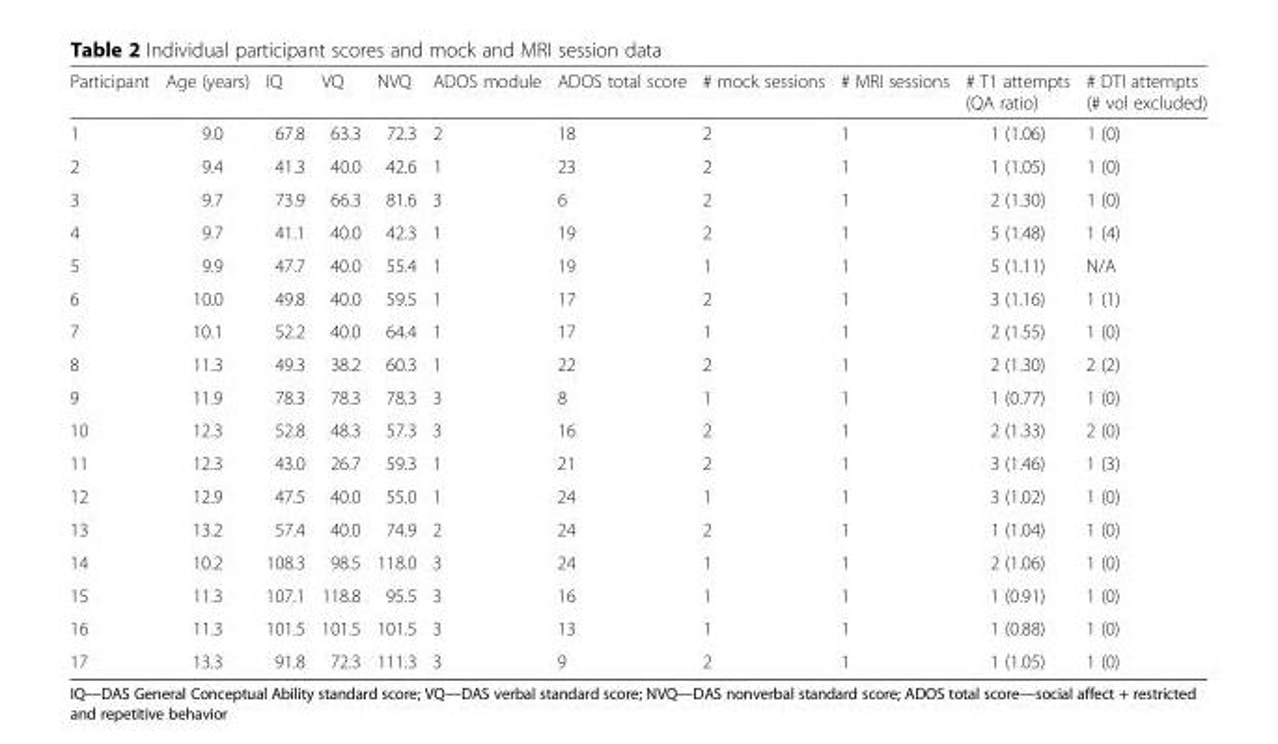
<table><thead><tr><td>Participant</td><td>Age (years)</td><td>IQ</td><td>VQ</td><td>NVQ</td><td>ADOS module</td><td>ADOS total score</td><td># mock sessions</td><td># MRI sessions</td><td># T1 attempts (QA ratio)</td><td># DTI attempts (# vol excluded)</td></tr></thead><tbody><tr><td>1</td><td>9.0</td><td>67.8</td><td>63.3</td><td>72.3</td><td>2</td><td>18</td><td>2</td><td>1</td><td>1 (1.06)</td><td>1 (0)</td></tr><tr><td>2</td><td>9.4</td><td>41.3</td><td>40.0</td><td>42.6</td><td>1</td><td>23</td><td>2</td><td>1</td><td>1 (1.05)</td><td>1 (0)</td></tr><tr><td>3</td><td>9.7</td><td>73.9</td><td>66.3</td><td>81.6</td><td>3</td><td>6</td><td>2</td><td>1</td><td>2 (1.30)</td><td>1 (0)</td></tr><tr><td>4</td><td>9.7</td><td>41.1</td><td>40.0</td><td>42.3</td><td>1</td><td>19</td><td>2</td><td>1</td><td>5 (1.48)</td><td>1 (4)</td></tr><tr><td>5</td><td>9.9</td><td>47.7</td><td>40.0</td><td>55.4</td><td>1</td><td>19</td><td>1</td><td>1</td><td>5 (1.11)</td><td>N/A</td></tr><tr><td>6</td><td>10.0</td><td>49.8</td><td>40.0</td><td>59.5</td><td>1</td><td>17</td><td>2</td><td>1</td><td>3 (1.16)</td><td>1 (1)</td></tr><tr><td>7</td><td>10.1</td><td>52.2</td><td>40.0</td><td>64.4</td><td>1</td><td>17</td><td>1</td><td>1</td><td>2 (1.55)</td><td>1 (0)</td></tr><tr><td>8</td><td>11.3</td><td>49.3</td><td>38.2</td><td>60.3</td><td>1</td><td>22</td><td>2</td><td>1</td><td>2 (1.30)</td><td>2 (2)</td></tr><tr><td>9</td><td>11.9</td><td>78.3</td><td>78.3</td><td>78.3</td><td>3</td><td>8</td><td>1</td><td>1</td><td>1 (0.77)</td><td>1 (0)</td></tr><tr><td>10</td><td>12.3</td><td>52.8</td><td>48.3</td><td>57.3</td><td>3</td><td>16</td><td>2</td><td>1</td><td>2 (1.33)</td><td>2 (0)</td></tr><tr><td>11</td><td>12.3</td><td>43.0</td><td>26.7</td><td>59.3</td><td>1</td><td>21</td><td>2</td><td>1</td><td>3 (1.46)</td><td>1 (3)</td></tr><tr><td>12</td><td>12.9</td><td>47.5</td><td>40.0</td><td>55.0</td><td>1</td><td>24</td><td>1</td><td>1</td><td>3 (1.02)</td><td>1 (0)</td></tr><tr><td>13</td><td>13.2</td><td>57.4</td><td>40.0</td><td>74.9</td><td>2</td><td>24</td><td>2</td><td>1</td><td>1 (1.04)</td><td>1 (0)</td></tr><tr><td>14</td><td>10.2</td><td>108.3</td><td>98.5</td><td>118.0</td><td>3</td><td>24</td><td>1</td><td>1</td><td>2 (1.06)</td><td>1 (0)</td></tr><tr><td>15</td><td>11.3</td><td>107.1</td><td>118.8</td><td>95.5</td><td>3</td><td>16</td><td>1</td><td>1</td><td>1 (0.91)</td><td>1 (0)</td></tr><tr><td>16</td><td>11.3</td><td>101.5</td><td>101.5</td><td>101.5</td><td>3</td><td>13</td><td>1</td><td>1</td><td>1 (0.88)</td><td>1 (0)</td></tr><tr><td>17</td><td>13.3</td><td>91.8</td><td>72.3</td><td>111.3</td><td>3</td><td>9</td><td>2</td><td>1</td><td>1 (1.05)</td><td>1 (0)</td></tr></tbody></table>